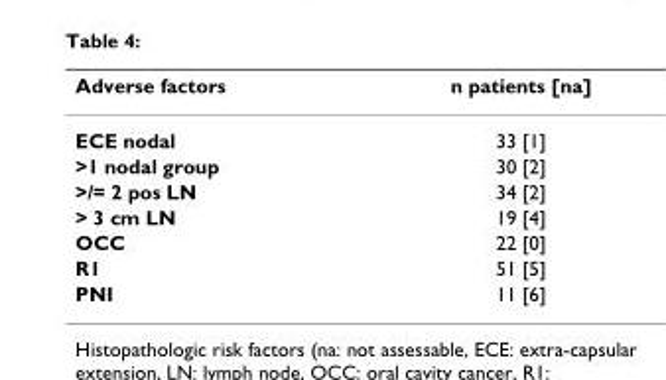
<table><thead><tr><td>Adverse factors</td><td>n patients [na]</td></tr></thead><tbody><tr><td>ECE nodal</td><td>33 [1]</td></tr><tr><td>&gt;1 nodal group</td><td>30 [2]</td></tr><tr><td>&gt;/= 2 pos LN</td><td>34 [2]</td></tr><tr><td>&gt; 3 cm LN</td><td>19 [4]</td></tr><tr><td>OCC</td><td>22 [0]</td></tr><tr><td>R1</td><td>51 [5]</td></tr><tr><td>PNI</td><td>11 [6]</td></tr></tbody></table>